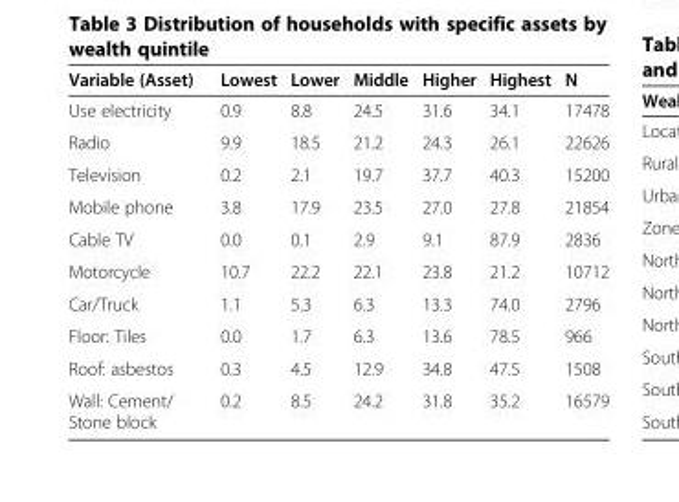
<table><thead><tr><td>Variable (Asset)</td><td>Lowest</td><td>Lower</td><td>Middle</td><td>Higher</td><td>Highest</td><td>N</td></tr></thead><tbody><tr><td>Use electricity</td><td>0.9</td><td>8.8</td><td>24.5</td><td>31.6</td><td>34.1</td><td>17478</td></tr><tr><td>Radio</td><td>9.9</td><td>18.5</td><td>21.2</td><td>24.3</td><td>26.1</td><td>22626</td></tr><tr><td>Television</td><td>0.2</td><td>2.1</td><td>19.7</td><td>37.7</td><td>40.3</td><td>15200</td></tr><tr><td>Mobile phone</td><td>3.8</td><td>17.9</td><td>23.5</td><td>27.0</td><td>27.8</td><td>21854</td></tr><tr><td>Cable TV</td><td>0.0</td><td>0.1</td><td>2.9</td><td>9.1</td><td>87.9</td><td>2836</td></tr><tr><td>Motorcycle</td><td>10.7</td><td>22.2</td><td>22.1</td><td>23.8</td><td>21.2</td><td>10712</td></tr><tr><td>Car/Truck</td><td>1.1</td><td>5.3</td><td>6.3</td><td>13.3</td><td>74.0</td><td>2796</td></tr><tr><td>Floor: Tiles</td><td>0.0</td><td>1.7</td><td>6.3</td><td>13.6</td><td>78.5</td><td>966</td></tr><tr><td>Roof: asbestos</td><td>0.3</td><td>4.5</td><td>12.9</td><td>34.8</td><td>47.5</td><td>1508</td></tr><tr><td>Wall: Cement/ Stone block</td><td>0.2</td><td>8.5</td><td>24.2</td><td>31.8</td><td>35.2</td><td>16579</td></tr></tbody></table>